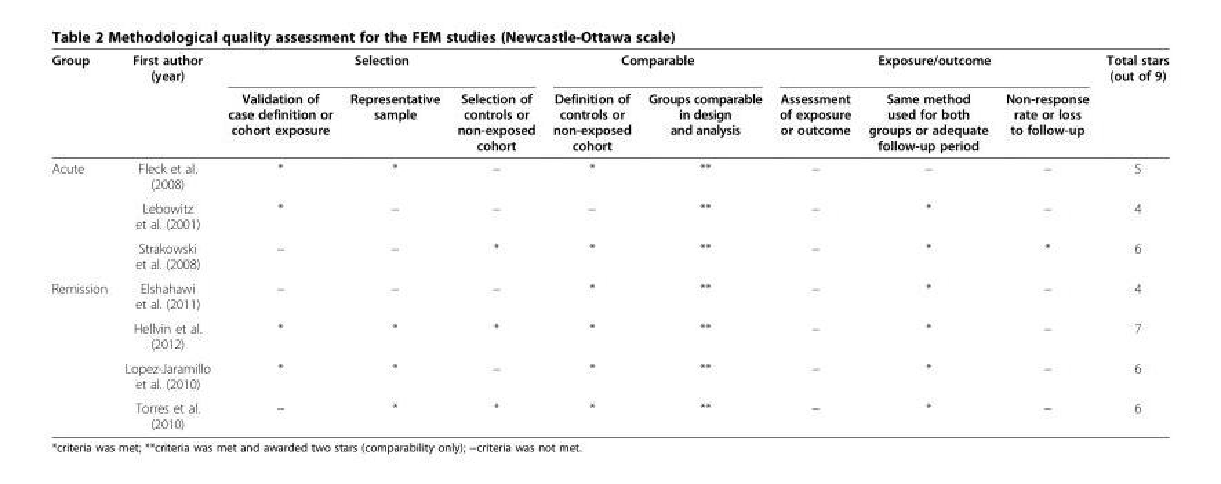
<table><thead><tr><td rowspan="2">Group</td><td rowspan="2">First author (year)</td><td colspan="3">Selection</td><td colspan="2">Comparable</td><td colspan="3">Exposure/outcome</td><td rowspan="2">Total stars (out of 9)</td></tr><tr><td>Validation of case definition or cohort exposure</td><td>Representative sample</td><td>Selection of controls or non-exposed cohort</td><td>Definition of controls or non-exposed cohort</td><td>Groups comparable in design and analysis</td><td>Assessment of exposure or outcome</td><td>Same method used for both groups or adequate follow-up period</td><td>Non-response rate or loss to follow-up</td></tr></thead><tbody><tr><td rowspan="3">Acute</td><td>Fleck et al. (2008)</td><td>*</td><td>*</td><td>−</td><td>*</td><td>**</td><td>−</td><td>−</td><td>−</td><td>5</td></tr><tr><td>Lebowitz et al. (2001)</td><td>*</td><td>−</td><td>−</td><td>−</td><td>**</td><td>−</td><td>*</td><td>−</td><td>4</td></tr><tr><td>Strakowski et al. (2008)</td><td>−</td><td>−</td><td>*</td><td>*</td><td>**</td><td>−</td><td>*</td><td>*</td><td>6</td></tr><tr><td rowspan="4">Remission</td><td>Elshahawi et al. (2011)</td><td>−</td><td>−</td><td>−</td><td>*</td><td>**</td><td>−</td><td>*</td><td>−</td><td>4</td></tr><tr><td>Hellvin et al. (2012)</td><td>*</td><td>*</td><td>*</td><td>*</td><td>**</td><td>−</td><td>*</td><td>−</td><td>7</td></tr><tr><td>Lopez-Jaramillo et al. (2010)</td><td>*</td><td>*</td><td>−</td><td>*</td><td>**</td><td>−</td><td>*</td><td>−</td><td>6</td></tr><tr><td>Torres et al. (2010)</td><td>−</td><td>*</td><td>*</td><td>*</td><td>**</td><td>−</td><td>*</td><td>−</td><td>6</td></tr></tbody></table>